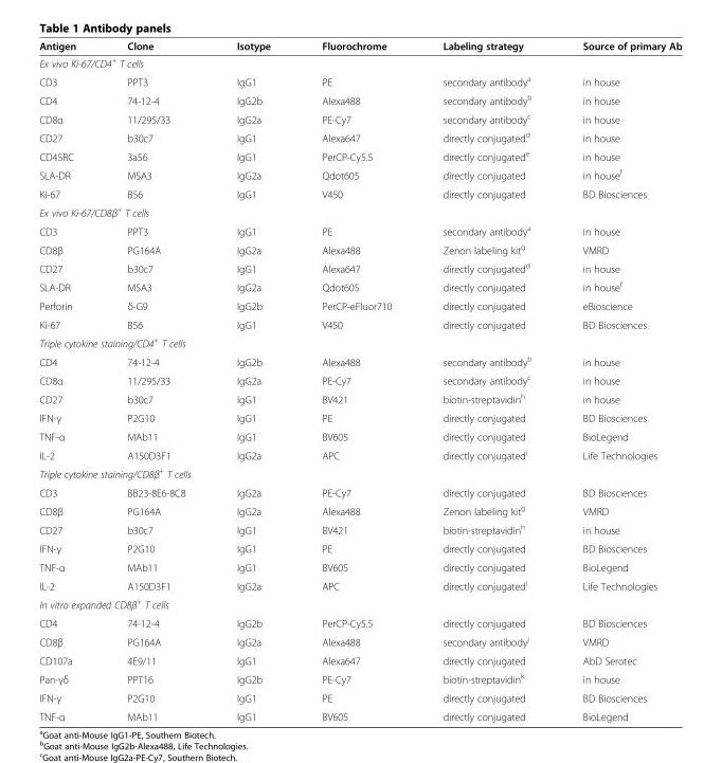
<table><thead><tr><td>Antigen</td><td>Clone</td><td>Isotype</td><td>Fluorochrome</td><td>Labeling strategy</td><td>Source of primary Ab</td></tr></thead><tbody><tr><td colspan="6">Ex vivo Ki-67/CD4<sup>+</sup> T cells</td></tr><tr><td>CD3</td><td>PPT3</td><td>IgG1</td><td>PE</td><td>secondary antibody<sup>a</sup></td><td>in house</td></tr><tr><td>CD4</td><td>74-12-4</td><td>IgG2b</td><td>Alexa488</td><td>secondary antibody<sup>b</sup></td><td>in house</td></tr><tr><td>CD8α</td><td>11/295/33</td><td>IgG2a</td><td>PE-Cy7</td><td>secondary antibody<sup>c</sup></td><td>in house</td></tr><tr><td>CD27</td><td>b30c7</td><td>IgG1</td><td>Alexa647</td><td>directly conjugated<sup>d</sup></td><td>in house</td></tr><tr><td>CD45RC</td><td>3a56</td><td>IgG1</td><td>PerCP-Cy5.5</td><td>directly conjugated<sup>e</sup></td><td>in house</td></tr><tr><td>SLA-DR</td><td>MSA3</td><td>IgG2a</td><td>Qdot605</td><td>directly conjugated</td><td>in house<sup>f</sup></td></tr><tr><td>Ki-67</td><td>B56</td><td>IgG1</td><td>V450</td><td>directly conjugated</td><td>BD Biosciences</td></tr><tr><td colspan="6">Ex vivo Ki-67/CD8β<sup>+</sup> T cells</td></tr><tr><td>CD3</td><td>PPT3</td><td>IgG1</td><td>PE</td><td>secondary antibody<sup>a</sup></td><td>in house</td></tr><tr><td>CD8β</td><td>PG164A</td><td>IgG2a</td><td>Alexa488</td><td>Zenon labeling kit<sup>g</sup></td><td>VMRD</td></tr><tr><td>CD27</td><td>b30c7</td><td>IgG1</td><td>Alexa647</td><td>directly conjugated<sup>d</sup></td><td>in house</td></tr><tr><td>SLA-DR</td><td>MSA3</td><td>IgG2a</td><td>Qdot605</td><td>directly conjugated</td><td>in house<sup>f</sup></td></tr><tr><td>Perforin</td><td>δ-G9</td><td>IgG2b</td><td>PerCP-eFluor710</td><td>directly conjugated</td><td>eBioscience</td></tr><tr><td>Ki-67</td><td>B56</td><td>IgG1</td><td>V450</td><td>directly conjugated</td><td>BD Biosciences</td></tr><tr><td colspan="6">Triple cytokine staining/CD4<sup>+</sup> T cells</td></tr><tr><td>CD4</td><td>74-12-4</td><td>IgG2b</td><td>Alexa488</td><td>secondary antibody<sup>b</sup></td><td>in house</td></tr><tr><td>CD8α</td><td>11/295/33</td><td>IgG2a</td><td>PE-Cy7</td><td>secondary antibody<sup>c</sup></td><td>in house</td></tr><tr><td>CD27</td><td>b30c7</td><td>IgG1</td><td>BV421</td><td>biotin-streptavidin<sup>h</sup></td><td>in house</td></tr><tr><td>IFN-γ</td><td>P2G10</td><td>IgG1</td><td>PE</td><td>directly conjugated</td><td>BD Biosciences</td></tr><tr><td>TNF-α</td><td>MAb11</td><td>IgG1</td><td>BV605</td><td>directly conjugated</td><td>BioLegend</td></tr><tr><td>IL-2</td><td>A150D3F1</td><td>IgG2a</td><td>APC</td><td>directly conjugated<sup>i</sup></td><td>Life Technologies</td></tr><tr><td colspan="6">Triple cytokine staining/CD8β<sup>+</sup> T cells</td></tr><tr><td>CD3</td><td>BB23-8E6-8C8</td><td>IgG2a</td><td>PE-Cy7</td><td>directly conjugated</td><td>BD Biosciences</td></tr><tr><td>CD8β</td><td>PG164A</td><td>IgG2a</td><td>Alexa488</td><td>Zenon labeling kit<sup>g</sup></td><td>VMRD</td></tr><tr><td>CD27</td><td>b30c7</td><td>IgG1</td><td>BV421</td><td>biotin-streptavidin<sup>h</sup></td><td>in house</td></tr><tr><td>IFN-γ</td><td>P2G10</td><td>IgG1</td><td>PE</td><td>directly conjugated</td><td>BD Biosciences</td></tr><tr><td>TNF-α</td><td>MAb11</td><td>IgG1</td><td>BV605</td><td>directly conjugated</td><td>BioLegend</td></tr><tr><td>IL-2</td><td>A150D3F1</td><td>IgG2a</td><td>APC</td><td>directly conjugated<sup>i</sup></td><td>Life Technologies</td></tr><tr><td colspan="6">In vitro expanded CD8β<sup>+</sup> T cells</td></tr><tr><td>CD4</td><td>74-12-4</td><td>IgG2b</td><td>PerCP-Cy5.5</td><td>directly conjugated</td><td>BD Biosciences</td></tr><tr><td>CD8β</td><td>PG164A</td><td>IgG2a</td><td>Alexa488</td><td>secondary antibody<sup>j</sup></td><td>VMRD</td></tr><tr><td>CD107a</td><td>4E9/11</td><td>IgG1</td><td>Alexa647</td><td>directly conjugated</td><td>AbD Serotec</td></tr><tr><td>Pan-γδ</td><td>PPT16</td><td>IgG2b</td><td>PE-Cy7</td><td>biotin-streptavidin<sup>k</sup></td><td>in house</td></tr><tr><td>IFN-γ</td><td>P2G10</td><td>IgG1</td><td>PE</td><td>directly conjugated</td><td>BD Biosciences</td></tr><tr><td>TNF-α</td><td>MAb11</td><td>IgG1</td><td>BV605</td><td>directly conjugated</td><td>BioLegend</td></tr></tbody></table>